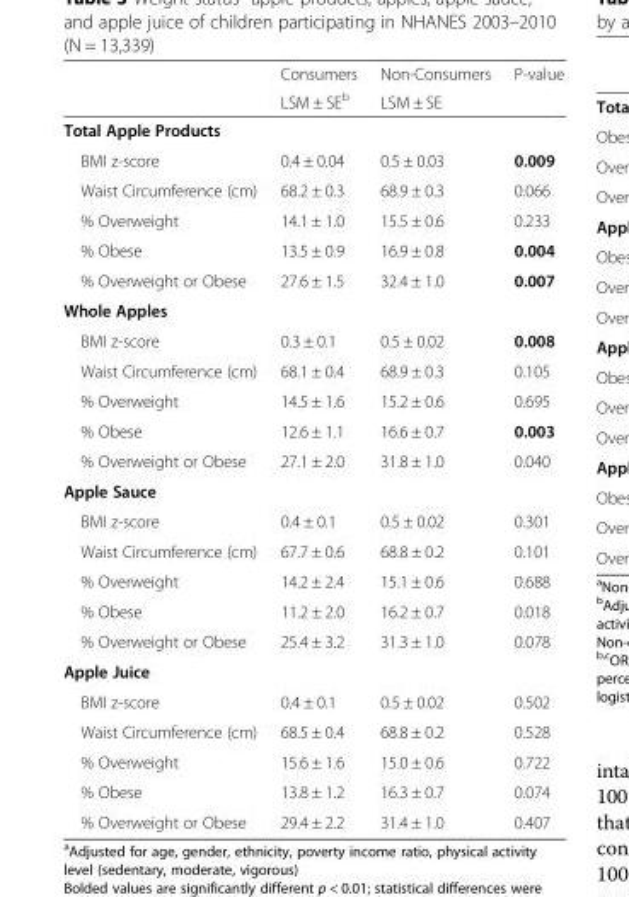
<table><thead><tr><td rowspan="2"></td><td rowspan="2">Consumers LSM ± SE<sup>b</sup></td><td rowspan="2">Non-Consumers LSM ± SE</td><td rowspan="2">P-value</td></tr><tr></tr></thead><tbody><tr><td colspan="4">Total Apple Products</td></tr><tr><td>BMI z-score</td><td>0.4 ± 0.04</td><td>0.5 ± 0.03</td><td>0.009</td></tr><tr><td>Waist Circumference (cm)</td><td>68.2 ± 0.3</td><td>68.9 ± 0.3</td><td>0.066</td></tr><tr><td>% Overweight</td><td>14.1 ± 1.0</td><td>15.5 ± 0.6</td><td>0.233</td></tr><tr><td>% Obese</td><td>13.5 ± 0.9</td><td>16.9 ± 0.8</td><td>0.004</td></tr><tr><td>% Overweight or Obese</td><td>27.6 ± 1.5</td><td>32.4 ± 1.0</td><td>0.007</td></tr><tr><td colspan="4">Whole Apples</td></tr><tr><td>BMI z-score</td><td>0.3 ± 0.1</td><td>0.5 ± 0.02</td><td>0.008</td></tr><tr><td>Waist Circumference (cm)</td><td>68.1 ± 0.4</td><td>68.9 ± 0.3</td><td>0.105</td></tr><tr><td>% Overweight</td><td>14.5 ± 1.6</td><td>15.2 ± 0.6</td><td>0.695</td></tr><tr><td>% Obese</td><td>12.6 ± 1.1</td><td>16.6 ± 0.7</td><td>0.003</td></tr><tr><td>% Overweight or Obese</td><td>27.1 ± 2.0</td><td>31.8 ± 1.0</td><td>0.040</td></tr><tr><td colspan="4">Apple Sauce</td></tr><tr><td>BMI z-score</td><td>0.4 ± 0.1</td><td>0.5 ± 0.02</td><td>0.301</td></tr><tr><td>Waist Circumference (cm)</td><td>67.7 ± 0.6</td><td>68.8 ± 0.2</td><td>0.101</td></tr><tr><td>% Overweight</td><td>14.2 ± 2.4</td><td>15.1 ± 0.6</td><td>0.688</td></tr><tr><td>% Obese</td><td>11.2 ± 2.0</td><td>16.2 ± 0.7</td><td>0.018</td></tr><tr><td>% Overweight or Obese</td><td>25.4 ± 3.2</td><td>31.3 ± 1.0</td><td>0.078</td></tr><tr><td colspan="4">Apple Juice</td></tr><tr><td>BMI z-score</td><td>0.4 ± 0.1</td><td>0.5 ± 0.02</td><td>0.502</td></tr><tr><td>Waist Circumference (cm)</td><td>68.5 ± 0.4</td><td>68.8 ± 0.2</td><td>0.528</td></tr><tr><td>% Overweight</td><td>15.6 ± 1.6</td><td>15.0 ± 0.6</td><td>0.722</td></tr><tr><td>% Obese</td><td>13.8 ± 1.2</td><td>16.3 ± 0.7</td><td>0.074</td></tr><tr><td>% Overweight or Obese</td><td>29.4 ± 2.2</td><td>31.4 ± 1.0</td><td>0.407</td></tr></tbody></table>